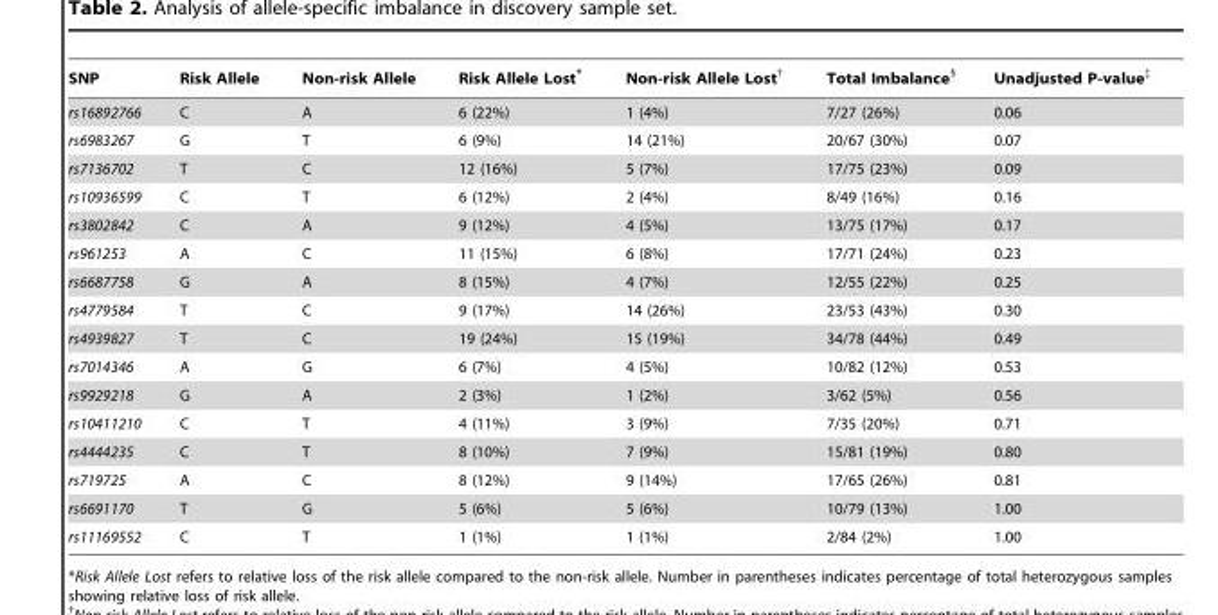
<table><thead><tr><td>SNP</td><td>Risk Allele</td><td>Non-risk Allele</td><td>Risk Allele Lost*</td><td>Non-risk Allele Lost†</td><td>Total Imbalance§</td><td>Unadjusted P-value‡</td></tr></thead><tbody><tr><td>rs16892766</td><td>C</td><td>A</td><td>6 (22%)</td><td>1 (4%)</td><td>7/27 (26%)</td><td>0.06</td></tr><tr><td>rs6983267</td><td>G</td><td>T</td><td>6 (9%)</td><td>14 (21%)</td><td>20/67 (30%)</td><td>0.07</td></tr><tr><td>rs7136702</td><td>T</td><td>C</td><td>12 (16%)</td><td>5 (7%)</td><td>17/75 (23%)</td><td>0.09</td></tr><tr><td>rs10936599</td><td>C</td><td>T</td><td>6 (12%)</td><td>2 (4%)</td><td>8/49 (16%)</td><td>0.16</td></tr><tr><td>rs3802842</td><td>C</td><td>A</td><td>9 (12%)</td><td>4 (5%)</td><td>13/75 (17%)</td><td>0.17</td></tr><tr><td>rs961253</td><td>A</td><td>C</td><td>11 (15%)</td><td>6 (8%)</td><td>17/71 (24%)</td><td>0.23</td></tr><tr><td>rs6687758</td><td>G</td><td>A</td><td>8 (15%)</td><td>4 (7%)</td><td>12/55 (22%)</td><td>0.25</td></tr><tr><td>rs4779584</td><td>T</td><td>C</td><td>9 (17%)</td><td>14 (26%)</td><td>23/53 (43%)</td><td>0.30</td></tr><tr><td>rs4939827</td><td>T</td><td>C</td><td>19 (24%)</td><td>15 (19%)</td><td>34/78 (44%)</td><td>0.49</td></tr><tr><td>rs7014346</td><td>A</td><td>G</td><td>6 (7%)</td><td>4 (5%)</td><td>10/82 (12%)</td><td>0.53</td></tr><tr><td>rs9929218</td><td>G</td><td>A</td><td>2 (3%)</td><td>1 (2%)</td><td>3/62 (5%)</td><td>0.56</td></tr><tr><td>rs10411210</td><td>C</td><td>T</td><td>4 (11%)</td><td>3 (9%)</td><td>7/35 (20%)</td><td>0.71</td></tr><tr><td>rs4444235</td><td>C</td><td>T</td><td>8 (10%)</td><td>7 (9%)</td><td>15/81 (19%)</td><td>0.80</td></tr><tr><td>rs719725</td><td>A</td><td>C</td><td>8 (12%)</td><td>9 (14%)</td><td>17/65 (26%)</td><td>0.81</td></tr><tr><td>rs6691170</td><td>T</td><td>G</td><td>5 (6%)</td><td>5 (6%)</td><td>10/79 (13%)</td><td>1.00</td></tr><tr><td>rs11169552</td><td>C</td><td>T</td><td>1 (1%)</td><td>1 (1%)</td><td>2/84 (2%)</td><td>1.00</td></tr></tbody></table>